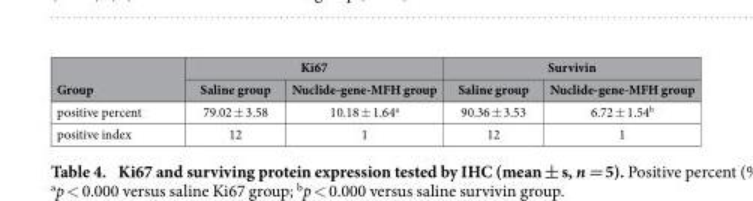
<table><thead><tr><td rowspan="2">Group</td><td colspan="2">Ki67</td><td colspan="2">Survivin</td></tr><tr><td>Saline group</td><td>Nuclide-gene-MFH group</td><td>Saline group</td><td>Nuclide-gene-MFH group</td></tr></thead><tbody><tr><td>positive percent</td><td>79.02 ± 3.58</td><td>10.18 ± 1.64<sup>a</sup></td><td>90.36 ± 3.53</td><td>6.72 ± 1.54<sup>b</sup></td></tr><tr><td>positive index</td><td>12</td><td>1</td><td>12</td><td>1</td></tr></tbody></table>